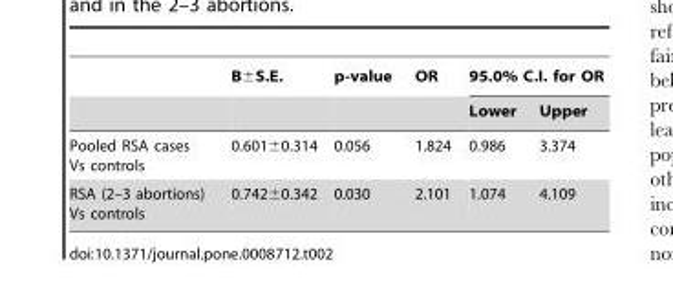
<table><thead><tr><td rowspan="2"></td><td rowspan="2">B±S.E.</td><td rowspan="2">p-value</td><td rowspan="2">OR</td><td colspan="2">95.0% C.I. for OR</td></tr><tr><td>Lower</td><td>Upper</td></tr></thead><tbody><tr><td>Pooled RSA cases Vs controls</td><td>0.601±0.314</td><td>0.056</td><td>1.824</td><td>0.986</td><td>3.374</td></tr><tr><td>RSA (2–3 abortions) Vs controls</td><td>0.742±0.342</td><td>0.030</td><td>2.101</td><td>1.074</td><td>4.109</td></tr></tbody></table>